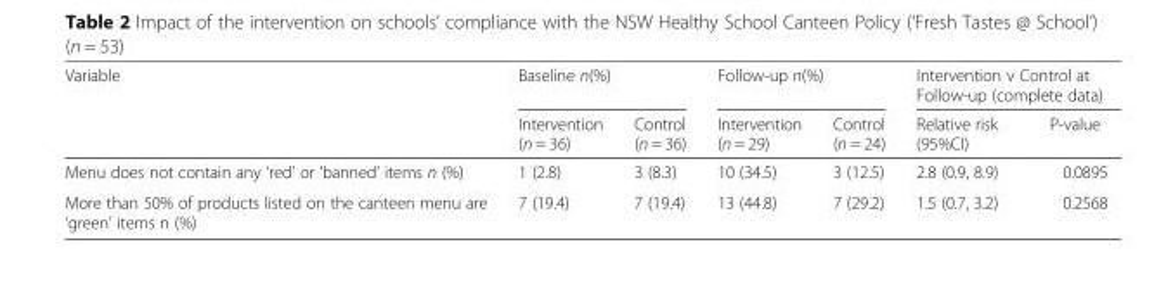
<table><thead><tr><td rowspan="2">Variable</td><td colspan="2">Baseline n(%)</td><td colspan="2">Follow-up n(%)</td><td colspan="2">Intervention v Control at Follow-up (complete data)</td></tr><tr><td>Intervention (n = 36)</td><td>Control (n = 36)</td><td>Intervention (n = 29)</td><td>Control (n = 24)</td><td>Relative risk (95%CI)</td><td>P-value</td></tr></thead><tbody><tr><td>Menu does not contain any ‘red’ or ‘banned’ items n (%)</td><td>1 (2.8)</td><td>3 (8.3)</td><td>10 (34.5)</td><td>3 (12.5)</td><td>2.8 (0.9, 8.9)</td><td>0.0895</td></tr><tr><td>More than 50% of products listed on the canteen menu are ‘green’ items n (%)</td><td>7 (19.4)</td><td>7 (19.4)</td><td>13 (44.8)</td><td>7 (29.2)</td><td>1.5 (0.7, 3.2)</td><td>0.2568</td></tr></tbody></table>